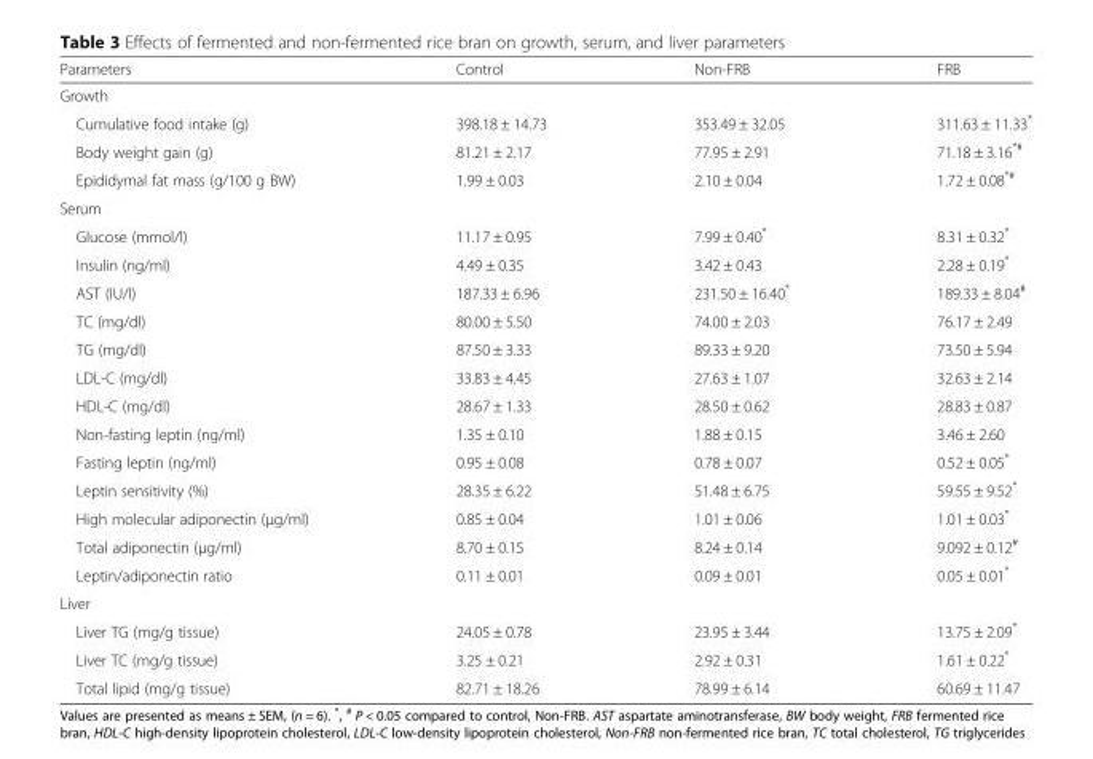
<table><thead><tr><td>Parameters</td><td>Control</td><td>Non-FRB</td><td>FRB</td></tr></thead><tbody><tr><td colspan="4">Growth</td></tr><tr><td>Cumulative food intake (g)</td><td>398.18 ± 14.73</td><td>353.49 ± 32.05</td><td>311.63 ± 11.33*</td></tr><tr><td>Body weight gain (g)</td><td>81.21 ± 2.17</td><td>77.95 ± 2.91</td><td>71.18 ± 3.16<sup>*#</sup></td></tr><tr><td>Epididymal fat mass (g/100 g BW)</td><td>1.99 ± 0.03</td><td>2.10 ± 0.04</td><td>1.72 ± 0.08<sup>*#</sup></td></tr><tr><td colspan="4">Serum</td></tr><tr><td>Glucose (mmol/l)</td><td>11.17 ± 0.95</td><td>7.99 ± 0.40*</td><td>8.31 ± 0.32*</td></tr><tr><td>Insulin (ng/ml)</td><td>4.49 ± 0.35</td><td>3.42 ± 0.43</td><td>2.28 ± 0.19*</td></tr><tr><td>AST (IU/l)</td><td>187.33 ± 6.96</td><td>231.50 ± 16.40*</td><td>189.33 ± 8.04<sup>#</sup></td></tr><tr><td>TC (mg/dl)</td><td>80.00 ± 5.50</td><td>74.00 ± 2.03</td><td>76.17 ± 2.49</td></tr><tr><td>TG (mg/dl)</td><td>87.50 ± 3.33</td><td>89.33 ± 9.20</td><td>73.50 ± 5.94</td></tr><tr><td>LDL-C (mg/dl)</td><td>33.83 ± 4.45</td><td>27.63 ± 1.07</td><td>32.63 ± 2.14</td></tr><tr><td>HDL-C (mg/dl)</td><td>28.67 ± 1.33</td><td>28.50 ± 0.62</td><td>28.83 ± 0.87</td></tr><tr><td>Non-fasting leptin (ng/ml)</td><td>1.35 ± 0.10</td><td>1.88 ± 0.15</td><td>3.46 ± 2.60</td></tr><tr><td>Fasting leptin (ng/ml)</td><td>0.95 ± 0.08</td><td>0.78 ± 0.07</td><td>0.52 ± 0.05*</td></tr><tr><td>Leptin sensitivity (%)</td><td>28.35 ± 6.22</td><td>51.48 ± 6.75</td><td>59.55 ± 9.52*</td></tr><tr><td>High molecular adiponectin (μg/ml)</td><td>0.85 ± 0.04</td><td>1.01 ± 0.06</td><td>1.01 ± 0.03*</td></tr><tr><td>Total adiponectin (μg/ml)</td><td>8.70 ± 0.15</td><td>8.24 ± 0.14</td><td>9.092 ± 0.12<sup>#</sup></td></tr><tr><td>Leptin/adiponectin ratio</td><td>0.11 ± 0.01</td><td>0.09 ± 0.01</td><td>0.05 ± 0.01*</td></tr><tr><td colspan="4">Liver</td></tr><tr><td>Liver TG (mg/g tissue)</td><td>24.05 ± 0.78</td><td>23.95 ± 3.44</td><td>13.75 ± 2.09*</td></tr><tr><td>Liver TC (mg/g tissue)</td><td>3.25 ± 0.21</td><td>2.92 ± 0.31</td><td>1.61 ± 0.22*</td></tr><tr><td>Total lipid (mg/g tissue)</td><td>82.71 ± 18.26</td><td>78.99 ± 6.14</td><td>60.69 ± 11.47</td></tr></tbody></table>